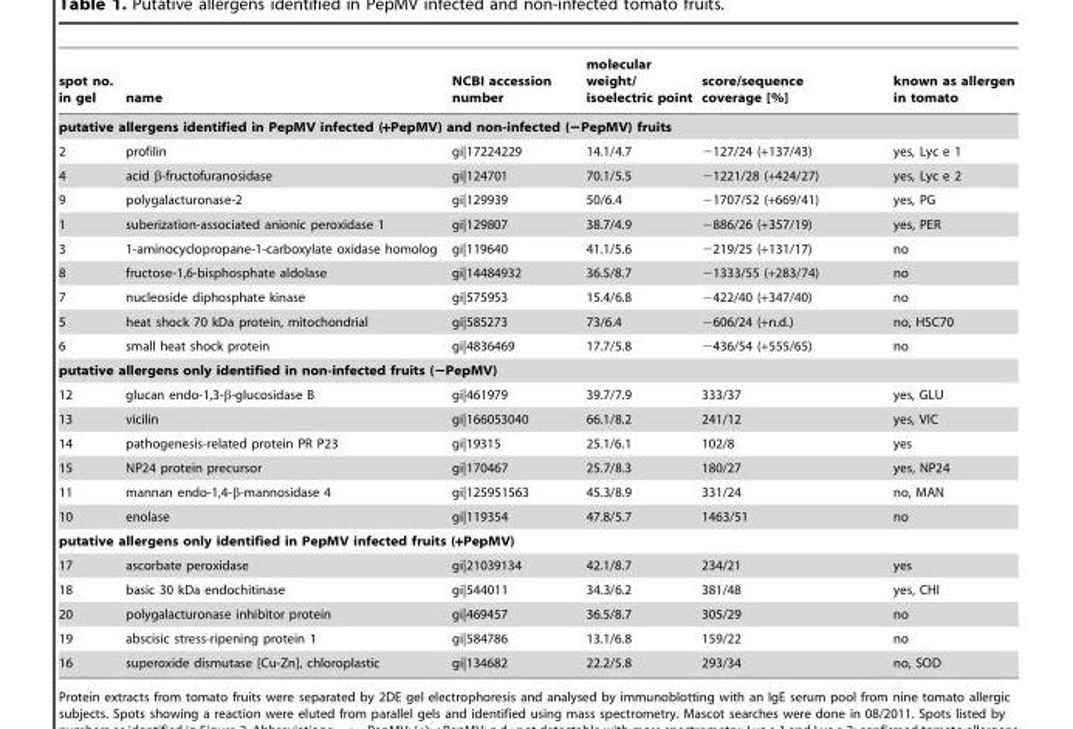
<table><thead><tr><td>spot no. in gel</td><td>name</td><td>NCBI accession number</td><td>molecular weight/ isoelectric point</td><td>score/sequence coverage [%]</td><td>known as allergen in tomato</td></tr></thead><tbody><tr><td colspan="6">putative allergens identified in PepMV infected (+PepMV) and non-infected (−PepMV) fruits</td></tr><tr><td>2</td><td>profilin</td><td>gi|17224229</td><td>14.1/4.7</td><td>−127/24 (+137/43)</td><td>yes, Lyc e 1</td></tr><tr><td>4</td><td>acid β-fructofuranosidase</td><td>gi|124701</td><td>70.1/5.5</td><td>−1221/28 (+424/27)</td><td>yes, Lyc e 2</td></tr><tr><td>9</td><td>polygalacturonase-2</td><td>gi|129939</td><td>50/6.4</td><td>−1707/52 (+669/41)</td><td>yes, PG</td></tr><tr><td>1</td><td>suberization-associated anionic peroxidase 1</td><td>gi|129807</td><td>38.7/4.9</td><td>−886/26 (+357/19)</td><td>yes, PER</td></tr><tr><td>3</td><td>1-aminocyclopropane-1-carboxylate oxidase homolog</td><td>gi|119640</td><td>41.1/5.6</td><td>−219/25 (+131/17)</td><td>no</td></tr><tr><td>8</td><td>fructose-1,6-bisphosphate aldolase</td><td>gi|14484932</td><td>36.5/8.7</td><td>−1333/55 (+283/74)</td><td>no</td></tr><tr><td>7</td><td>nucleoside diphosphate kinase</td><td>gi|575953</td><td>15.4/6.8</td><td>−422/40 (+347/40)</td><td>no</td></tr><tr><td>5</td><td>heat shock 70 kDa protein, mitochondrial</td><td>gi|585273</td><td>73/6.4</td><td>−606/24 (+n.d.)</td><td>no, HSC70</td></tr><tr><td>6</td><td>small heat shock protein</td><td>gi|4836469</td><td>17.7/5.8</td><td>−436/54 (+555/65)</td><td>no</td></tr><tr><td colspan="6">putative allergens only identified in non-infected fruits (−PepMV)</td></tr><tr><td>12</td><td>glucan endo-1,3-β-glucosidase B</td><td>gi|461979</td><td>39.7/7.9</td><td>333/37</td><td>yes, GLU</td></tr><tr><td>13</td><td>vicilin</td><td>gi|166053040</td><td>66.1/8.2</td><td>241/12</td><td>yes, VIC</td></tr><tr><td>14</td><td>pathogenesis-related protein PR P23</td><td>gi|19315</td><td>25.1/6.1</td><td>102/8</td><td>yes</td></tr><tr><td>15</td><td>NP24 protein precursor</td><td>gi|170467</td><td>25.7/8.3</td><td>180/27</td><td>yes, NP24</td></tr><tr><td>11</td><td>mannan endo-1,4-β-mannosidase 4</td><td>gi|125951563</td><td>45.3/8.9</td><td>331/24</td><td>no, MAN</td></tr><tr><td>10</td><td>enolase</td><td>gi|119354</td><td>47.8/5.7</td><td>1463/51</td><td>no</td></tr><tr><td colspan="6">putative allergens only identified in PepMV infected fruits (+PepMV)</td></tr><tr><td>17</td><td>ascorbate peroxidase</td><td>gi|21039134</td><td>42.1/8.7</td><td>234/21</td><td>yes</td></tr><tr><td>18</td><td>basic 30 kDa endochitinase</td><td>gi|544011</td><td>34.3/6.2</td><td>381/48</td><td>yes, CHI</td></tr><tr><td>20</td><td>polygalacturonase inhibitor protein</td><td>gi|469457</td><td>36.5/8.7</td><td>305/29</td><td>no</td></tr><tr><td>19</td><td>abscisic stress-ripening protein 1</td><td>gi|584786</td><td>13.1/6.8</td><td>159/22</td><td>no</td></tr><tr><td>16</td><td>superoxide dismutase [Cu-Zn], chloroplastic</td><td>gi|134682</td><td>22.2/5.8</td><td>293/34</td><td>no, SOD</td></tr></tbody></table>